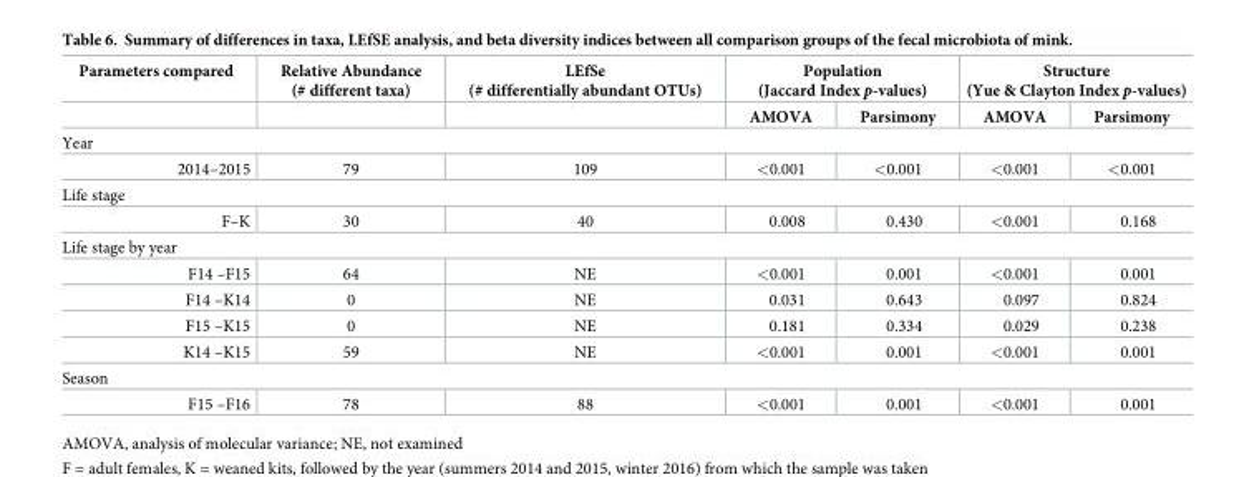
<table><thead><tr><td rowspan="2">Parameters compared</td><td rowspan="2">Relative Abundance (# different taxa)</td><td rowspan="2">LEfSe (# differentially abundant OTUs)</td><td colspan="2">Population (Jaccard Index p-values)</td><td colspan="2">Structure (Yue &amp; Clayton Index p-values)</td></tr><tr><td>AMOVA</td><td>Parsimony</td><td>AMOVA</td><td>Parsimony</td></tr></thead><tbody><tr><td colspan="7">Year</td></tr><tr><td>2014–2015</td><td>79</td><td>109</td><td>&lt;0.001</td><td>&lt;0.001</td><td>&lt;0.001</td><td>&lt;0.001</td></tr><tr><td colspan="7">Life stage</td></tr><tr><td>F–K</td><td>30</td><td>40</td><td>0.008</td><td>0.430</td><td>&lt;0.001</td><td>0.168</td></tr><tr><td colspan="7">Life stage by year</td></tr><tr><td>F14 –F15</td><td>64</td><td>NE</td><td>&lt;0.001</td><td>0.001</td><td>&lt;0.001</td><td>0.001</td></tr><tr><td>F14 –K14</td><td>0</td><td>NE</td><td>0.031</td><td>0.643</td><td>0.097</td><td>0.824</td></tr><tr><td>F15 –K15</td><td>0</td><td>NE</td><td>0.181</td><td>0.334</td><td>0.029</td><td>0.238</td></tr><tr><td>K14 –K15</td><td>59</td><td>NE</td><td>&lt;0.001</td><td>0.001</td><td>&lt;0.001</td><td>0.001</td></tr><tr><td colspan="7">Season</td></tr><tr><td>F15 –F16</td><td>78</td><td>88</td><td>&lt;0.001</td><td>0.001</td><td>&lt;0.001</td><td>0.001</td></tr></tbody></table>